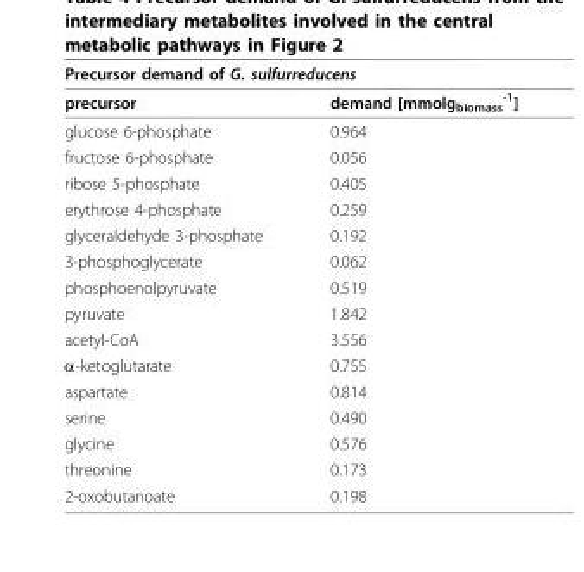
<table><thead><tr><td colspan="2">Precursor demand of G. sulfurreducens</td></tr><tr><td>precursor</td><td>demand [mmolg<sub>biomass</sub> <sup>-1</sup>]</td></tr></thead><tbody><tr><td>glucose 6-phosphate</td><td>0.964</td></tr><tr><td>fructose 6-phosphate</td><td>0.056</td></tr><tr><td>ribose 5-phosphate</td><td>0.405</td></tr><tr><td>erythrose 4-phosphate</td><td>0.259</td></tr><tr><td>glyceraldehyde 3-phosphate</td><td>0.192</td></tr><tr><td>3-phosphoglycerate</td><td>0.062</td></tr><tr><td>phosphoenolpyruvate</td><td>0.519</td></tr><tr><td>pyruvate</td><td>1.842</td></tr><tr><td>acetyl-CoA</td><td>3.556</td></tr><tr><td>α-ketoglutarate</td><td>0.755</td></tr><tr><td>aspartate</td><td>0.814</td></tr><tr><td>serine</td><td>0.490</td></tr><tr><td>glycine</td><td>0.576</td></tr><tr><td>threonine</td><td>0.173</td></tr><tr><td>2-oxobutanoate</td><td>0.198</td></tr></tbody></table>